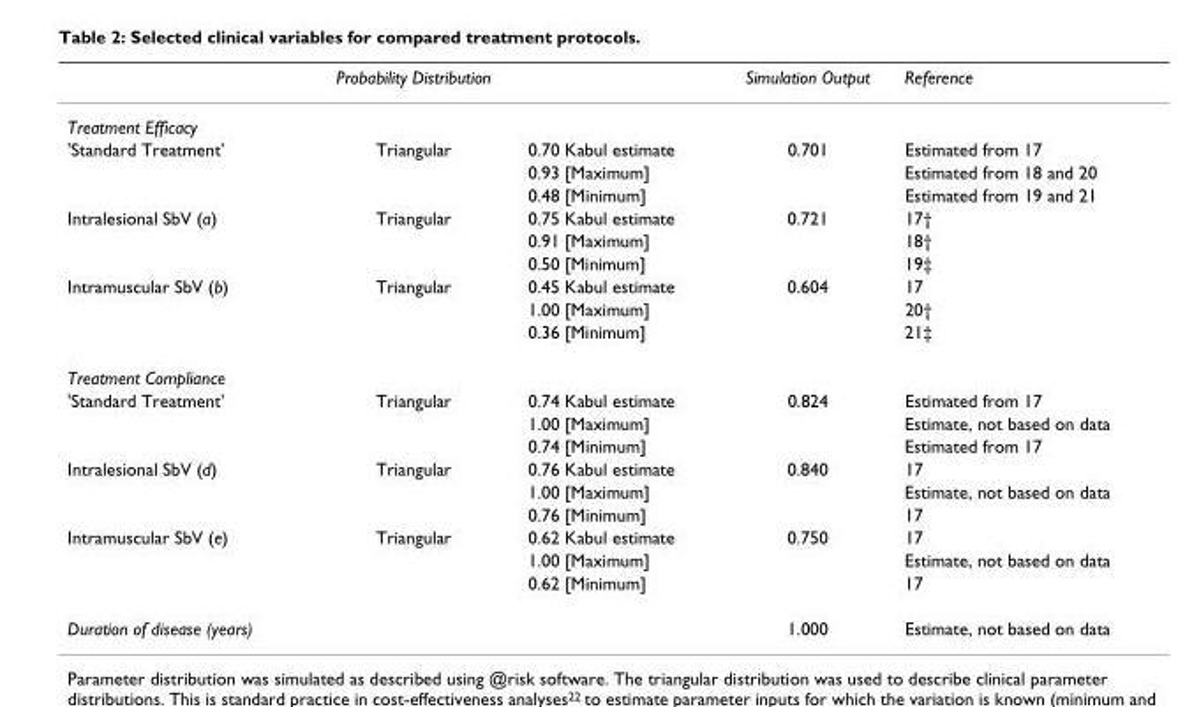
<table><thead><tr><td></td><td>Probability Distribution</td><td></td><td>Simulation Output</td><td>Reference</td></tr></thead><tbody><tr><td colspan="5">Treatment Efficacy</td></tr><tr><td rowspan="3">&#x27;Standard Treatment&#x27;</td><td>Triangular</td><td>0.70 Kabul estimate</td><td>0.701</td><td>Estimated from 17</td></tr><tr><td></td><td>0.93 [Maximum]</td><td></td><td>Estimated from 18 and 20</td></tr><tr><td></td><td>0.48 [Minimum]</td><td></td><td>Estimated from 19 and 21</td></tr><tr><td rowspan="3">Intralesional SbV (a)</td><td>Triangular</td><td>0.75 Kabul estimate</td><td>0.721</td><td>17†</td></tr><tr><td></td><td>0.91 [Maximum]</td><td></td><td>18†</td></tr><tr><td></td><td>0.50 [Minimum]</td><td></td><td>19‡</td></tr><tr><td rowspan="3">Intramuscular SbV (b)</td><td>Triangular</td><td>0.45 Kabul estimate</td><td>0.604</td><td>17</td></tr><tr><td></td><td>1.00 [Maximum]</td><td></td><td>20†</td></tr><tr><td></td><td>0.36 [Minimum]</td><td></td><td>21‡</td></tr><tr><td colspan="5">Treatment Compliance</td></tr><tr><td rowspan="3">&#x27;Standard Treatment&#x27;</td><td>Triangular</td><td>0.74 Kabul estimate</td><td>0.824</td><td>Estimated from 17</td></tr><tr><td></td><td>1.00 [Maximum]</td><td></td><td>Estimate, not based on data</td></tr><tr><td></td><td>0.74 [Minimum]</td><td></td><td>Estimated from 17</td></tr><tr><td rowspan="3">Intralesional SbV (d)</td><td>Triangular</td><td>0.76 Kabul estimate</td><td>0.840</td><td>17</td></tr><tr><td></td><td>1.00 [Maximum]</td><td></td><td>Estimate, not based on data</td></tr><tr><td></td><td>0.76 [Minimum]</td><td></td><td>17</td></tr><tr><td rowspan="3">Intramuscular SbV (e)</td><td>Triangular</td><td>0.62 Kabul estimate</td><td>0.750</td><td>17</td></tr><tr><td></td><td>1.00 [Maximum]</td><td></td><td>Estimate, not based on data</td></tr><tr><td></td><td>0.62 [Minimum]</td><td></td><td>17</td></tr><tr><td>Duration of disease (years)</td><td></td><td></td><td>1.000</td><td>Estimate, not based on data</td></tr></tbody></table>